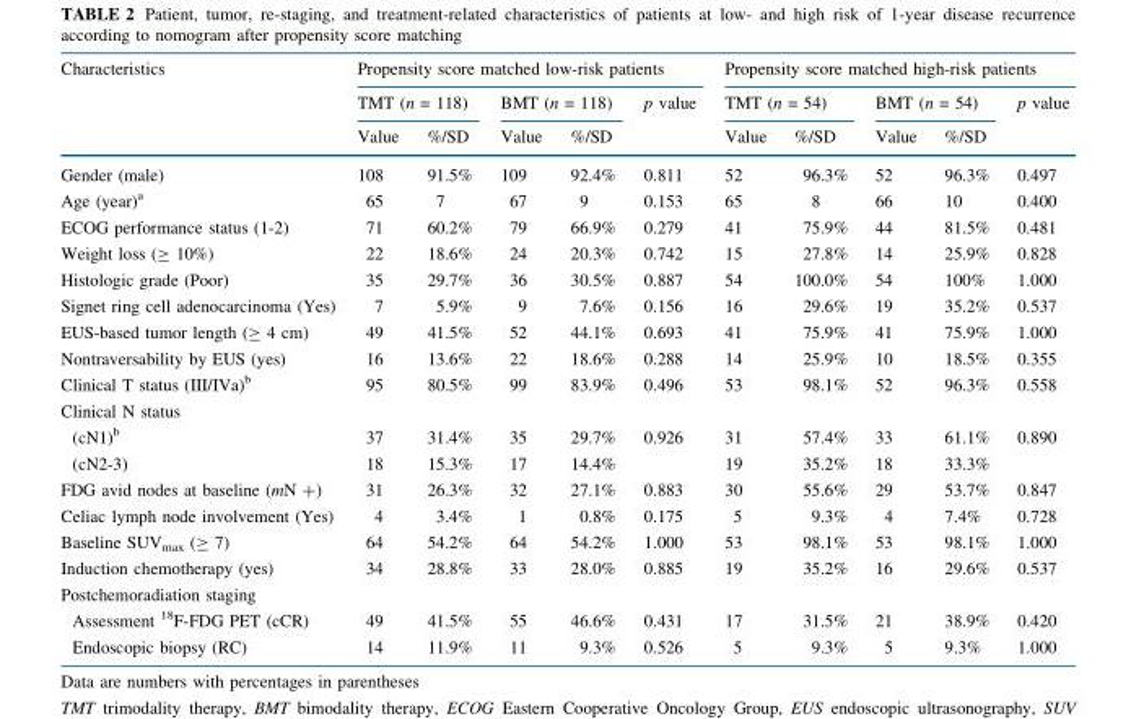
<table><thead><tr><td rowspan="3">Characteristics</td><td colspan="5">Propensity score matched low-risk patients</td><td colspan="5">Propensity score matched high-risk patients</td></tr><tr><td colspan="2">TMT (n = 118)</td><td colspan="2">BMT (n = 118)</td><td rowspan="2">p value</td><td colspan="2">TMT (n = 54)</td><td colspan="2">BMT (n = 54)</td><td rowspan="2">p value</td></tr><tr><td>Value</td><td>%/SD</td><td>Value</td><td>%/SD</td><td>Value</td><td>%/SD</td><td>Value</td><td>%/SD</td></tr></thead><tbody><tr><td>Gender (male)</td><td>108</td><td>91.5%</td><td>109</td><td>92.4%</td><td>0.811</td><td>52</td><td>96.3%</td><td>52</td><td>96.3%</td><td>0.497</td></tr><tr><td>Age (year)<sup>a</sup></td><td>65</td><td>7</td><td>67</td><td>9</td><td>0.153</td><td>65</td><td>8</td><td>66</td><td>10</td><td>0.400</td></tr><tr><td>ECOG performance status (1-2)</td><td>71</td><td>60.2%</td><td>79</td><td>66.9%</td><td>0.279</td><td>41</td><td>75.9%</td><td>44</td><td>81.5%</td><td>0.481</td></tr><tr><td>Weight loss (≥ 10%)</td><td>22</td><td>18.6%</td><td>24</td><td>20.3%</td><td>0.742</td><td>15</td><td>27.8%</td><td>14</td><td>25.9%</td><td>0.828</td></tr><tr><td>Histologic grade (Poor)</td><td>35</td><td>29.7%</td><td>36</td><td>30.5%</td><td>0.887</td><td>54</td><td>100.0%</td><td>54</td><td>100%</td><td>1.000</td></tr><tr><td>Signet ring cell adenocarcinoma (Yes)</td><td>7</td><td>5.9%</td><td>9</td><td>7.6%</td><td>0.156</td><td>16</td><td>29.6%</td><td>19</td><td>35.2%</td><td>0.537</td></tr><tr><td>EUS-based tumor length (≥ 4 cm)</td><td>49</td><td>41.5%</td><td>52</td><td>44.1%</td><td>0.693</td><td>41</td><td>75.9%</td><td>41</td><td>75.9%</td><td>1.000</td></tr><tr><td>Nontraversability by EUS (yes)</td><td>16</td><td>13.6%</td><td>22</td><td>18.6%</td><td>0.288</td><td>14</td><td>25.9%</td><td>10</td><td>18.5%</td><td>0.355</td></tr><tr><td>Clinical T status (III/IVa)<sup>b</sup></td><td>95</td><td>80.5%</td><td>99</td><td>83.9%</td><td>0.496</td><td>53</td><td>98.1%</td><td>52</td><td>96.3%</td><td>0.558</td></tr><tr><td colspan="11">Clinical N status</td></tr><tr><td>(cN1)<sup>b</sup></td><td>37</td><td>31.4%</td><td>35</td><td>29.7%</td><td>0.926</td><td>31</td><td>57.4%</td><td>33</td><td>61.1%</td><td>0.890</td></tr><tr><td>(cN2-3)</td><td>18</td><td>15.3%</td><td>17</td><td>14.4%</td><td></td><td>19</td><td>35.2%</td><td>18</td><td>33.3%</td><td></td></tr><tr><td>FDG avid nodes at baseline (mN +)</td><td>31</td><td>26.3%</td><td>32</td><td>27.1%</td><td>0.883</td><td>30</td><td>55.6%</td><td>29</td><td>53.7%</td><td>0.847</td></tr><tr><td>Celiac lymph node involvement (Yes)</td><td>4</td><td>3.4%</td><td>1</td><td>0.8%</td><td>0.175</td><td>5</td><td>9.3%</td><td>4</td><td>7.4%</td><td>0.728</td></tr><tr><td>Baseline SUV<sub>max</sub> (≥ 7)</td><td>64</td><td>54.2%</td><td>64</td><td>54.2%</td><td>1.000</td><td>53</td><td>98.1%</td><td>53</td><td>98.1%</td><td>1.000</td></tr><tr><td>Induction chemotherapy (yes)</td><td>34</td><td>28.8%</td><td>33</td><td>28.0%</td><td>0.885</td><td>19</td><td>35.2%</td><td>16</td><td>29.6%</td><td>0.537</td></tr><tr><td colspan="11">Postchemoradiation staging</td></tr><tr><td>Assessment <sup>18</sup>F-FDG PET (cCR)</td><td>49</td><td>41.5%</td><td>55</td><td>46.6%</td><td>0.431</td><td>17</td><td>31.5%</td><td>21</td><td>38.9%</td><td>0.420</td></tr><tr><td>Endoscopic biopsy (RC)</td><td>14</td><td>11.9%</td><td>11</td><td>9.3%</td><td>0.526</td><td>5</td><td>9.3%</td><td>5</td><td>9.3%</td><td>1.000</td></tr></tbody></table>